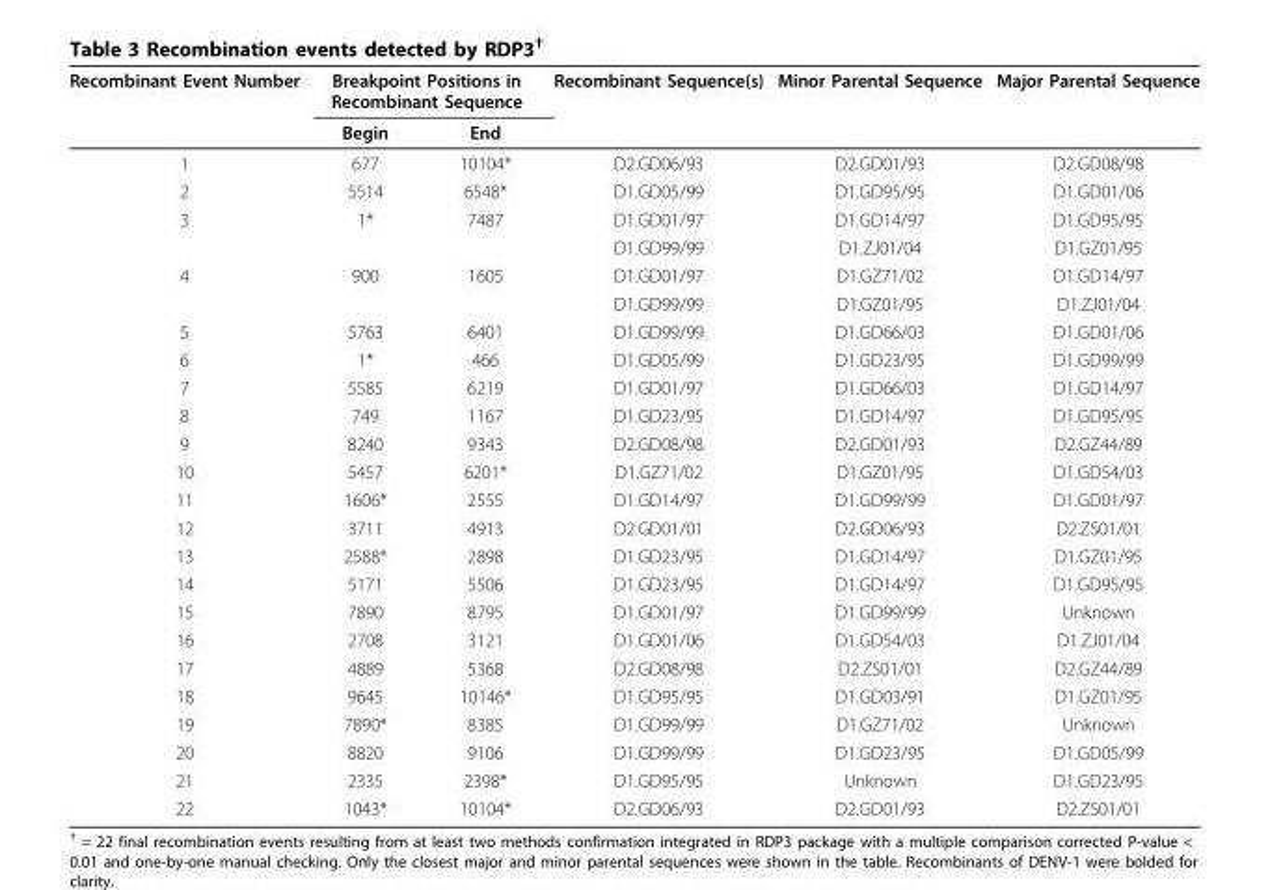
<table><thead><tr><td rowspan="2">Recombinant Event Number</td><td colspan="2">Breakpoint Positions in Recombinant Sequence</td><td rowspan="2">Recombinant Sequence(s)</td><td rowspan="2">Minor Parental Sequence</td><td rowspan="2">Major Parental Sequence</td></tr><tr><td>Begin</td><td>End</td></tr></thead><tbody><tr><td>1</td><td>677</td><td>10104*</td><td>D2.GD06/93</td><td>D2.GD01/93</td><td>D2.GD08/98</td></tr><tr><td>2</td><td>5514</td><td>6548*</td><td>D1.GD05/99</td><td>D1.GD95/95</td><td>D1.GD01/06</td></tr><tr><td rowspan="2">3</td><td>1*</td><td>7487</td><td>D1.GD01/97</td><td>D1.GD14/97</td><td>D1.GD95/95</td></tr><tr><td></td><td></td><td>D1.GD99/99</td><td>D1.ZJ01/04</td><td>D1.GZ01/95</td></tr><tr><td rowspan="2">4</td><td>900</td><td>1605</td><td>D1.GD01/97</td><td>D1.GZ71/02</td><td>D1.GD14/97</td></tr><tr><td></td><td></td><td>D1.GD99/99</td><td>D1.GZ01/95</td><td>D1.ZJ01/04</td></tr><tr><td>5</td><td>5763</td><td>6401</td><td>D1.GD99/99</td><td>D1.GD66/03</td><td>D1.GD01/06</td></tr><tr><td>6</td><td>1*</td><td>466</td><td>D1.GD05/99</td><td>D1.GD23/95</td><td>D1.GD99/99</td></tr><tr><td>7</td><td>5585</td><td>6219</td><td>D1.GD01/97</td><td>D1.GD66/03</td><td>D1.GD14/97</td></tr><tr><td>8</td><td>749</td><td>1167</td><td>D1.GD23/95</td><td>D1.GD14/97</td><td>D1.GD95/95</td></tr><tr><td>9</td><td>8240</td><td>9343</td><td>D2.GD08/98</td><td>D2.GD01/93</td><td>D2.GZ44/89</td></tr><tr><td>10</td><td>5457</td><td>6201*</td><td>D1.GZ71/02</td><td>D1.GZ01/95</td><td>D1.GD54/03</td></tr><tr><td>11</td><td>1606*</td><td>2555</td><td>D1.GD14/97</td><td>D1.GD99/99</td><td>D1.GD01/97</td></tr><tr><td>12</td><td>3711</td><td>4913</td><td>D2.GD01/01</td><td>D2.GD06/93</td><td>D2.ZS01/01</td></tr><tr><td>13</td><td>2588*</td><td>2898</td><td>D1.GD23/95</td><td>D1.GD14/97</td><td>D1.GZ01/95</td></tr><tr><td>14</td><td>5171</td><td>5506</td><td>D1.GD23/95</td><td>D1.GD14/97</td><td>D1.GD95/95</td></tr><tr><td>15</td><td>7890</td><td>8795</td><td>D1.GD01/97</td><td>D1.GD99/99</td><td>Unknown</td></tr><tr><td>16</td><td>2708</td><td>3121</td><td>D1.GD01/06</td><td>D1.GD54/03</td><td>D1.ZJ01/04</td></tr><tr><td>17</td><td>4889</td><td>5368</td><td>D2.GD08/98</td><td>D2.ZS01/01</td><td>D2.GZ44/89</td></tr><tr><td>18</td><td>9645</td><td>10146*</td><td>D1.GD95/95</td><td>D1.GD03/91</td><td>D1.GZ01/95</td></tr><tr><td>19</td><td>7890*</td><td>8385</td><td>D1.GD99/99</td><td>D1.GZ71/02</td><td>Unknown</td></tr><tr><td>20</td><td>8820</td><td>9106</td><td>D1.GD99/99</td><td>D1.GD23/95</td><td>D1.GD05/99</td></tr><tr><td>21</td><td>2335</td><td>2398*</td><td>D1.GD95/95</td><td>Unknown</td><td>D1.GD23/95</td></tr><tr><td>22</td><td>1043*</td><td>10104*</td><td>D2.GD06/93</td><td>D2.GD01/93</td><td>D2.ZS01/01</td></tr></tbody></table>